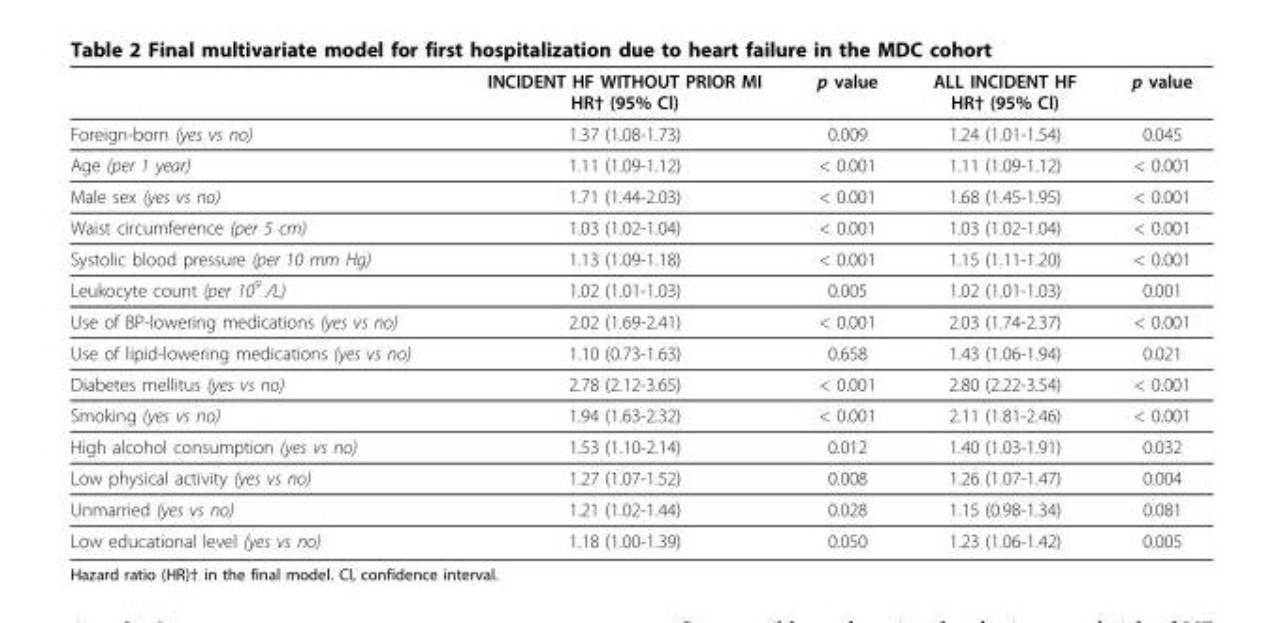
<table><thead><tr><td></td><td>INCIDENT HF WITHOUT PRIOR MI HR† (95% Cl)</td><td>p value</td><td>ALL INCIDENT HF HR† (95% Cl)</td><td>p value</td></tr></thead><tbody><tr><td>Foreign-born (yes vs no)</td><td>1.37 (1.08-1.73)</td><td>0.009</td><td>1.24 (1.01-1.54)</td><td>0.045</td></tr><tr><td>Age (per 1 year)</td><td>1.11 (1.09-1.12)</td><td>&lt; 0.001</td><td>1.11 (1.09-1.12)</td><td>&lt; 0.001</td></tr><tr><td>Male sex (yes vs no)</td><td>1.71 (1.44-2.03)</td><td>&lt; 0.001</td><td>1.68 (1.45-1.95)</td><td>&lt; 0.001</td></tr><tr><td>Waist circumference (per 5 cm)</td><td>1.03 (1.02-1.04)</td><td>&lt; 0.001</td><td>1.03 (1.02-1.04)</td><td>&lt; 0.001</td></tr><tr><td>Systolic blood pressure (per 10 mm Hg)</td><td>1.13 (1.09-1.18)</td><td>&lt; 0.001</td><td>1.15 (1.11-1.20)</td><td>&lt; 0.001</td></tr><tr><td>Leukocyte count (per 10<sup>9</sup> /L)</td><td>1.02 (1.01-1.03)</td><td>0.005</td><td>1.02 (1.01-1.03)</td><td>0.001</td></tr><tr><td>Use of BP-lowering medications (yes vs no)</td><td>2.02 (1.69-2.41)</td><td>&lt; 0.001</td><td>2.03 (1.74-2.37)</td><td>&lt; 0.001</td></tr><tr><td>Use of lipid-lowering medications (yes vs no)</td><td>1.10 (0.73-1.63)</td><td>0.658</td><td>1.43 (1.06-1.94)</td><td>0.021</td></tr><tr><td>Diabetes mellitus (yes vs no)</td><td>2.78 (2.12-3.65)</td><td>&lt; 0.001</td><td>2.80 (2.22-3.54)</td><td>&lt; 0.001</td></tr><tr><td>Smoking (yes vs no)</td><td>1.94 (1.63-2.32)</td><td>&lt; 0.001</td><td>2.11 (1.81-2.46)</td><td>&lt; 0.001</td></tr><tr><td>High alcohol consumption (yes vs no)</td><td>1.53 (1.10-2.14)</td><td>0.012</td><td>1.40 (1.03-1.91)</td><td>0.032</td></tr><tr><td>Low physical activity (yes vs no)</td><td>1.27 (1.07-1.52)</td><td>0.008</td><td>1.26 (1.07-1.47)</td><td>0.004</td></tr><tr><td>Unmarried (yes vs no)</td><td>1.21 (1.02-1.44)</td><td>0.028</td><td>1.15 (0.98-1.34)</td><td>0.081</td></tr><tr><td>Low educational level (yes vs no)</td><td>1.18 (1.00-1.39)</td><td>0.050</td><td>1.23 (1.06-1.42)</td><td>0.005</td></tr></tbody></table>